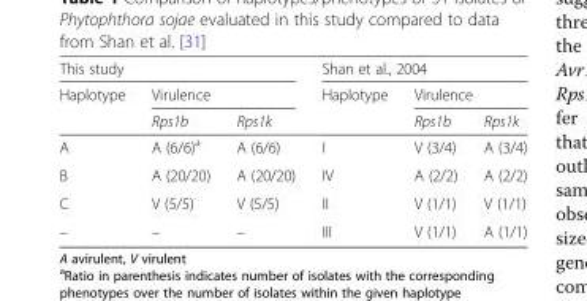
<table><thead><tr><td colspan="3">This study</td><td colspan="3">Shan et al., 2004</td></tr><tr><td rowspan="2">Haplotype</td><td colspan="2">Virulence</td><td rowspan="2">Haplotype</td><td colspan="2">Virulence</td></tr><tr><td>Rps1b</td><td>Rps1k</td><td>Rps1b</td><td>Rps1k</td></tr></thead><tbody><tr><td>A</td><td>A (6/6)<sup>a</sup></td><td>A (6/6)</td><td>I</td><td>V (3/4)</td><td>A (3/4)</td></tr><tr><td>B</td><td>A (20/20)</td><td>A (20/20)</td><td>IV</td><td>A (2/2)</td><td>A (2/2)</td></tr><tr><td>C</td><td>V (5/5)</td><td>V (5/5)</td><td>II</td><td>V (1/1)</td><td>V (1/1)</td></tr><tr><td>–</td><td>–</td><td>–</td><td>III</td><td>V (1/1)</td><td>A (1/1)</td></tr></tbody></table>